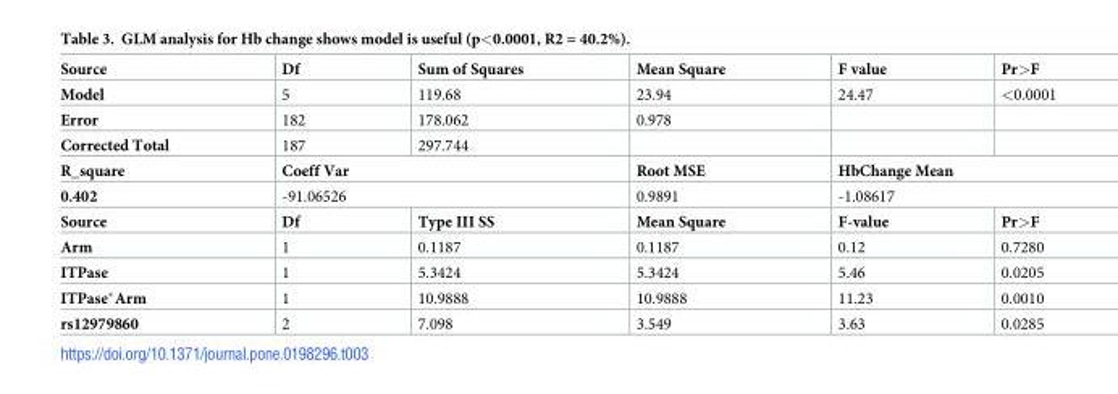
<table><tbody><tr><td>Source</td><td>Df</td><td>Sum of Squares</td><td>Mean Square</td><td>F value</td><td>Pr&gt;F</td></tr><tr><td>Model</td><td>5</td><td>119.68</td><td>23.94</td><td>24.47</td><td>&lt;0.0001</td></tr><tr><td>Error</td><td>182</td><td>178.062</td><td>0.978</td><td></td><td></td></tr><tr><td>Corrected Total</td><td>187</td><td>297.744</td><td></td><td></td><td></td></tr><tr><td>R_square</td><td colspan="2">Coeff Var</td><td>Root MSE</td><td colspan="2">HbChange Mean</td></tr><tr><td>0.402</td><td colspan="2">-91.06526</td><td>0.9891</td><td colspan="2">-1.08617</td></tr><tr><td>Source</td><td>Df</td><td>Type III SS</td><td>Mean Square</td><td>F-value</td><td>Pr&gt;F</td></tr><tr><td>Arm</td><td>1</td><td>0.1187</td><td>0.1187</td><td>0.12</td><td>0.7280</td></tr><tr><td>ITPase</td><td>1</td><td>5.3424</td><td>5.3424</td><td>5.46</td><td>0.0205</td></tr><tr><td>ITPase*Arm</td><td>1</td><td>10.9888</td><td>10.9888</td><td>11.23</td><td>0.0010</td></tr><tr><td>rs12979860</td><td>2</td><td>7.098</td><td>3.549</td><td>3.63</td><td>0.0285</td></tr></tbody></table>